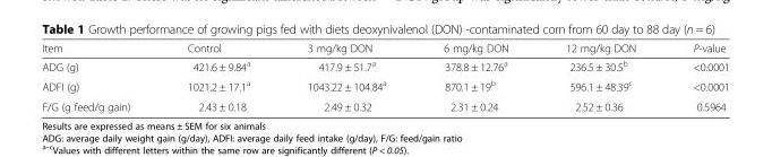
<table><thead><tr><td>Item</td><td>Control</td><td>3 mg/kg DON</td><td>6 mg/kg DON</td><td>12 mg/kg DON</td><td>P-value</td></tr></thead><tbody><tr><td>ADG (g)</td><td>421.6 ± 9.84<sup>a</sup></td><td>417.9 ± 51.7<sup>a</sup></td><td>378.8 ± 12.76<sup>a</sup></td><td>236.5 ± 30.5<sup>b</sup></td><td>&lt;0.0001</td></tr><tr><td>ADFI (g)</td><td>1021.2 ± 17.1<sup>a</sup></td><td>1043.22 ± 104.84<sup>a</sup></td><td>870.1 ± 19<sup>b</sup></td><td>596.1 ± 48.39<sup>c</sup></td><td>&lt;0.0001</td></tr><tr><td>F/G (g feed/g gain)</td><td>2.43 ± 0.18</td><td>2.49 ± 0.32</td><td>2.31 ± 0.24</td><td>2.52 ± 0.36</td><td>0.5964</td></tr></tbody></table>